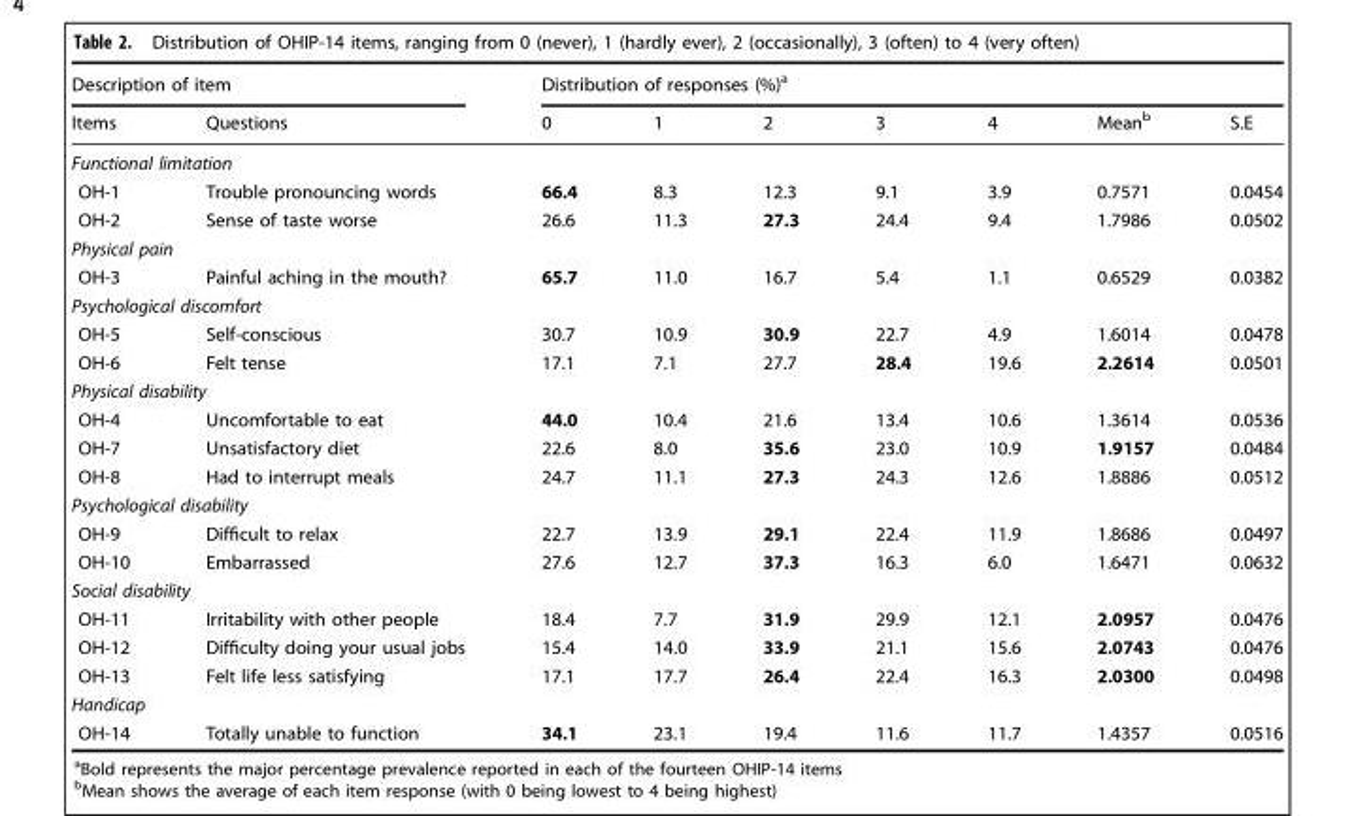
<table><thead><tr><td colspan="2">Description of item</td><td colspan="7">Distribution of responses (%)<sup>a</sup></td></tr><tr><td>Items</td><td>Questions</td><td>0</td><td>1</td><td>2</td><td>3</td><td>4</td><td>Mean<sup>b</sup></td><td>S.E</td></tr></thead><tbody><tr><td colspan="9">Functional limitation</td></tr><tr><td>OH-1</td><td>Trouble pronouncing words</td><td>66.4</td><td>8.3</td><td>12.3</td><td>9.1</td><td>3.9</td><td>0.7571</td><td>0.0454</td></tr><tr><td>OH-2</td><td>Sense of taste worse</td><td>26.6</td><td>11.3</td><td>27.3</td><td>24.4</td><td>9.4</td><td>1.7986</td><td>0.0502</td></tr><tr><td colspan="9">Physical pain</td></tr><tr><td>OH-3</td><td>Painful aching in the mouth?</td><td>65.7</td><td>11.0</td><td>16.7</td><td>5.4</td><td>1.1</td><td>0.6529</td><td>0.0382</td></tr><tr><td colspan="9">Psychological discomfort</td></tr><tr><td>OH-5</td><td>Self-conscious</td><td>30.7</td><td>10.9</td><td>30.9</td><td>22.7</td><td>4.9</td><td>1.6014</td><td>0.0478</td></tr><tr><td>OH-6</td><td>Felt tense</td><td>17.1</td><td>7.1</td><td>27.7</td><td>28.4</td><td>19.6</td><td>2.2614</td><td>0.0501</td></tr><tr><td colspan="9">Physical disability</td></tr><tr><td>OH-4</td><td>Uncomfortable to eat</td><td>44.0</td><td>10.4</td><td>21.6</td><td>13.4</td><td>10.6</td><td>1.3614</td><td>0.0536</td></tr><tr><td>OH-7</td><td>Unsatisfactory diet</td><td>22.6</td><td>8.0</td><td>35.6</td><td>23.0</td><td>10.9</td><td>1.9157</td><td>0.0484</td></tr><tr><td>OH-8</td><td>Had to interrupt meals</td><td>24.7</td><td>11.1</td><td>27.3</td><td>24.3</td><td>12.6</td><td>1.8886</td><td>0.0512</td></tr><tr><td colspan="9">Psychological disability</td></tr><tr><td>OH-9</td><td>Difficult to relax</td><td>22.7</td><td>13.9</td><td>29.1</td><td>22.4</td><td>11.9</td><td>1.8686</td><td>0.0497</td></tr><tr><td>OH-10</td><td>Embarrassed</td><td>27.6</td><td>12.7</td><td>37.3</td><td>16.3</td><td>6.0</td><td>1.6471</td><td>0.0632</td></tr><tr><td colspan="9">Social disability</td></tr><tr><td>OH-11</td><td>Irritability with other people</td><td>18.4</td><td>7.7</td><td>31.9</td><td>29.9</td><td>12.1</td><td>2.0957</td><td>0.0476</td></tr><tr><td>OH-12</td><td>Difficulty doing your usual jobs</td><td>15.4</td><td>14.0</td><td>33.9</td><td>21.1</td><td>15.6</td><td>2.0743</td><td>0.0476</td></tr><tr><td>OH-13</td><td>Felt life less satisfying</td><td>17.1</td><td>17.7</td><td>26.4</td><td>22.4</td><td>16.3</td><td>2.0300</td><td>0.0498</td></tr><tr><td colspan="9">Handicap</td></tr><tr><td>OH-14</td><td>Totally unable to function</td><td>34.1</td><td>23.1</td><td>19.4</td><td>11.6</td><td>11.7</td><td>1.4357</td><td>0.0516</td></tr></tbody></table>